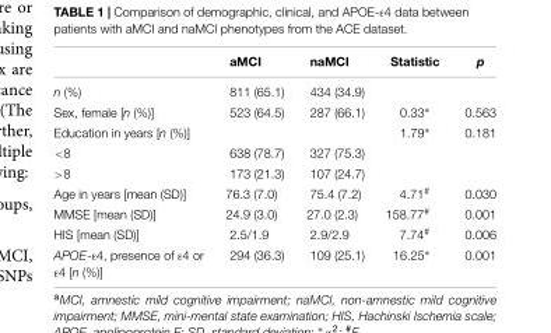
<table><thead><tr><td></td><td>aMCI</td><td>naMCI</td><td>Statistic</td><td>p</td></tr></thead><tbody><tr><td>n (%)</td><td>811 (65.1)</td><td>434 (34.9)</td><td></td><td></td></tr><tr><td>Sex, female [n (%)]</td><td>523 (64.5)</td><td>287 (66.1)</td><td>0.33∗</td><td>0.563</td></tr><tr><td>Education in years [n (%)]</td><td></td><td></td><td>1.79∗</td><td>0.181</td></tr><tr><td>&lt;8</td><td>638 (78.7)</td><td>327 (75.3)</td><td></td><td></td></tr><tr><td>&gt;8</td><td>173 (21.3)</td><td>107 (24.7)</td><td></td><td></td></tr><tr><td>Age in years [mean (SD)]</td><td>76.3 (7.0)</td><td>75.4 (7.2)</td><td>4.71<sup>#</sup></td><td>0.030</td></tr><tr><td>MMSE [mean (SD)]</td><td>24.9 (3.0)</td><td>27.0 (2.3)</td><td>158.77<sup>#</sup></td><td>0.001</td></tr><tr><td>HIS [mean (SD)]</td><td>2.5/1.9</td><td>2.9/2.9</td><td>7.74<sup>#</sup></td><td>0.006</td></tr><tr><td>APOE-ε4, presence of ε4 or ε4 [n (%)]</td><td>294 (36.3)</td><td>109 (25.1)</td><td>16.25∗</td><td>0.001</td></tr></tbody></table>